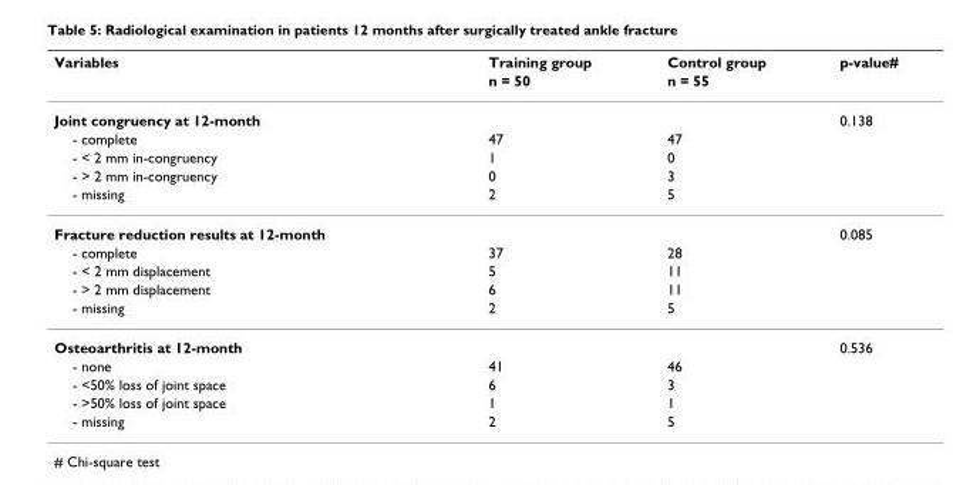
<table><thead><tr><td rowspan="2">Variables</td><td rowspan="2">Training group n = 50</td><td rowspan="2">Control group n = 55</td><td rowspan="2">p-value#</td></tr><tr></tr></thead><tbody><tr><td>Joint congruency at 12-month</td><td></td><td></td><td>0.138</td></tr><tr><td>- complete</td><td>47</td><td>47</td><td></td></tr><tr><td>- &lt; 2 mm in-congruency</td><td>1</td><td>0</td><td></td></tr><tr><td>- &gt; 2 mm in-congruency</td><td>0</td><td>3</td><td></td></tr><tr><td>- missing</td><td>2</td><td>5</td><td></td></tr><tr><td>Fracture reduction results at 12-month</td><td></td><td></td><td>0.085</td></tr><tr><td>- complete</td><td>37</td><td>28</td><td></td></tr><tr><td>- &lt; 2 mm displacement</td><td>5</td><td>11</td><td></td></tr><tr><td>- &gt; 2 mm displacement</td><td>6</td><td>11</td><td></td></tr><tr><td>- missing</td><td>2</td><td>5</td><td></td></tr><tr><td>Osteoarthritis at 12-month</td><td></td><td></td><td>0.536</td></tr><tr><td>- none</td><td>41</td><td>46</td><td></td></tr><tr><td>- &lt;50% loss of joint space</td><td>6</td><td>3</td><td></td></tr><tr><td>- &gt;50% loss of joint space</td><td>1</td><td>1</td><td></td></tr><tr><td>- missing</td><td>2</td><td>5</td><td></td></tr></tbody></table>